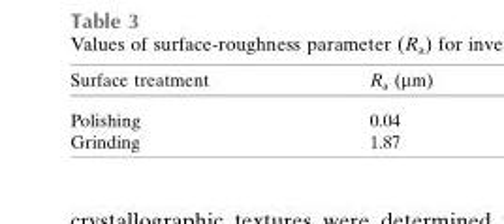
<table><thead><tr><td>Surface treatment</td><td>R<sub>a</sub> (µm)</td></tr></thead><tbody><tr><td>Polishing</td><td>0.04</td></tr><tr><td>Grinding</td><td>1.87</td></tr></tbody></table>